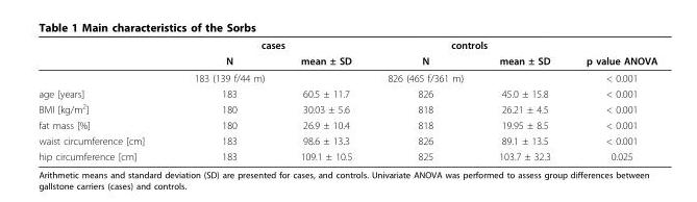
<table><thead><tr><td rowspan="2"></td><td colspan="2">cases</td><td colspan="2">controls</td><td rowspan="2">p value ANOVA</td></tr><tr><td>N</td><td>mean ± SD</td><td>N</td><td>mean ± SD</td></tr></thead><tbody><tr><td></td><td>183 (139 f/44 m)</td><td></td><td>826 (465 f/361 m)</td><td></td><td>&lt; 0.001</td></tr><tr><td>age [years]</td><td>183</td><td>60.5 ± 11.7</td><td>826</td><td>45.0 ± 15.8</td><td>&lt; 0.001</td></tr><tr><td>BMI [kg/m<sup>2</sup>]</td><td>180</td><td>30.03 ± 5.6</td><td>818</td><td>26.21 ± 4.5</td><td>&lt; 0.001</td></tr><tr><td>fat mass [%]</td><td>180</td><td>26.9 ± 10.4</td><td>818</td><td>19.95 ± 8.5</td><td>&lt; 0.001</td></tr><tr><td>waist circumference [cm]</td><td>183</td><td>98.6 ± 13.3</td><td>826</td><td>89.1 ± 13.5</td><td>&lt; 0.001</td></tr><tr><td>hip circumference [cm]</td><td>183</td><td>109.1 ± 10.5</td><td>825</td><td>103.7 ± 32.3</td><td>0.025</td></tr></tbody></table>